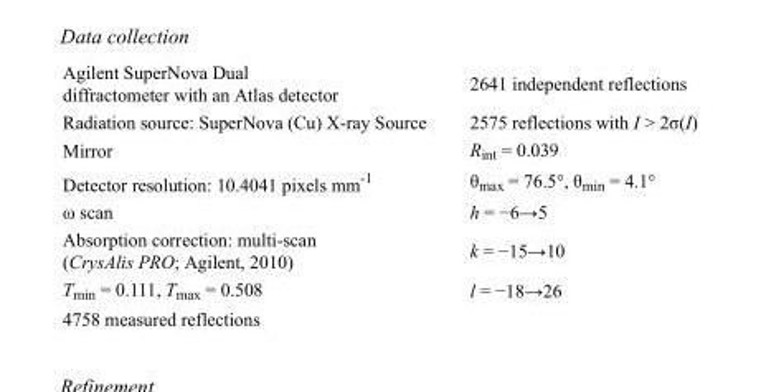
<table><tbody><tr><td>Agilent SuperNova Dual diffractometer with an Atlas detector</td><td>2641 independent reflections</td></tr><tr><td>Radiation source: SuperNova (Cu) X-ray Source</td><td>2575 reflections with I &gt; 2σ(I)</td></tr><tr><td>Mirror</td><td>R<sub>int</sub> = 0.039</td></tr><tr><td>Detector resolution: 10.4041 pixels mm<sup>-1</sup></td><td>θ<sub>max</sub> = 76.5°, θ<sub>min</sub> = 4.1°</td></tr><tr><td>ω scan</td><td>h = −6→5</td></tr><tr><td>Absorption correction: multi-scan (CrysAlis PRO; Agilent, 2010)</td><td>k = −15→10</td></tr><tr><td>T<sub>min</sub> = 0.111, T<sub>max</sub> = 0.508</td><td>l = −18→26</td></tr><tr><td>4758 measured reflections</td><td></td></tr></tbody></table>